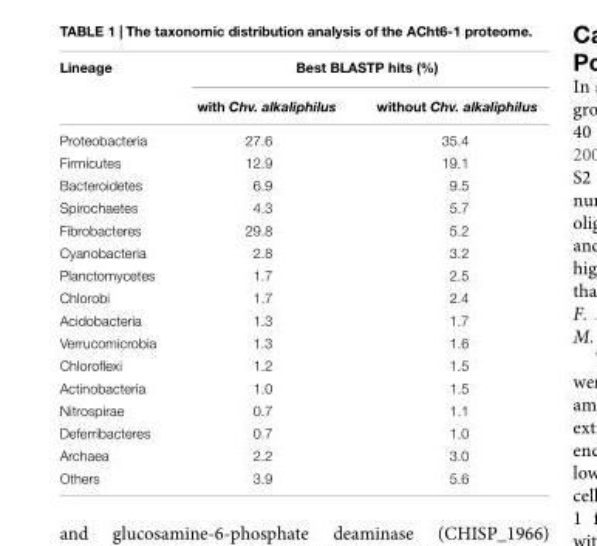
<table><thead><tr><td rowspan="2">Lineage</td><td colspan="2">Best BLASTP hits (%)</td></tr><tr><td>with Chv. alkaliphilus</td><td>without Chv. alkaliphilus</td></tr></thead><tbody><tr><td>Proteobacteria</td><td>27.6</td><td>35.4</td></tr><tr><td>Firmicutes</td><td>12.9</td><td>19.1</td></tr><tr><td>Bacteroidetes</td><td>6.9</td><td>9.5</td></tr><tr><td>Spirochaetes</td><td>4.3</td><td>5.7</td></tr><tr><td>Fibrobacteres</td><td>29.8</td><td>5.2</td></tr><tr><td>Cyanobacteria</td><td>2.8</td><td>3.2</td></tr><tr><td>Planctomycetes</td><td>1.7</td><td>2.5</td></tr><tr><td>Chlorobi</td><td>1.7</td><td>2.4</td></tr><tr><td>Acidobacteria</td><td>1.3</td><td>1.7</td></tr><tr><td>Verrucomicrobia</td><td>1.3</td><td>1.6</td></tr><tr><td>Chloroflexi</td><td>1.2</td><td>1.5</td></tr><tr><td>Actinobacteria</td><td>1.0</td><td>1.5</td></tr><tr><td>Nitrospirae</td><td>0.7</td><td>1.1</td></tr><tr><td>Deferribacteres</td><td>0.7</td><td>1.0</td></tr><tr><td>Archaea</td><td>2.2</td><td>3.0</td></tr><tr><td>Others</td><td>3.9</td><td>5.6</td></tr></tbody></table>